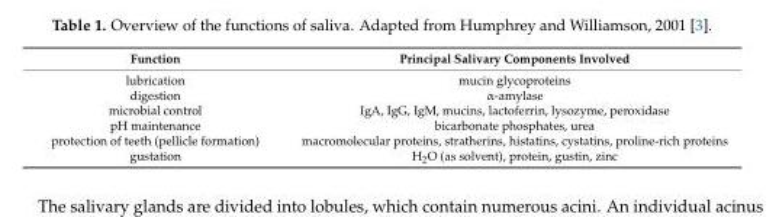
<table><thead><tr><td>Function</td><td>Principal Salivary Components Involved</td></tr></thead><tbody><tr><td>lubrication</td><td>mucin glycoproteins</td></tr><tr><td>digestion</td><td>α-amylase</td></tr><tr><td>microbial control</td><td>IgA, IgG, IgM, mucins, lactoferrin, lysozyme, peroxidase</td></tr><tr><td>pH maintenance</td><td>bicarbonate phosphates, urea</td></tr><tr><td>protection of teeth (pellicle formation)</td><td>macromolecular proteins, stratherins, histatins, cystatins, proline-rich proteins</td></tr><tr><td>gustation</td><td>H<sub>2</sub>O (as solvent), protein, gustin, zinc</td></tr></tbody></table>